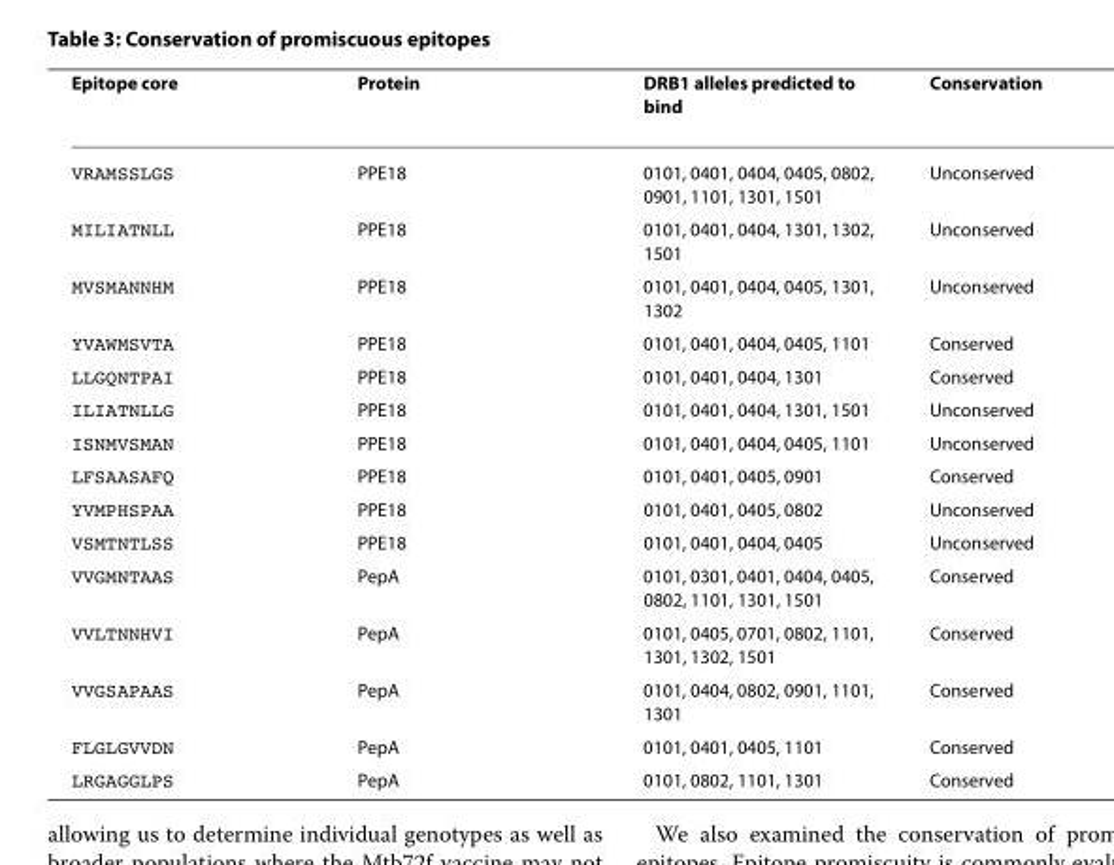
<table><thead><tr><td>Epitope core</td><td>Protein</td><td>DRB1 alleles predicted to bind</td><td>Conservation</td></tr></thead><tbody><tr><td>VRAMSSLGS</td><td>PPE18</td><td>0101, 0401, 0404, 0405, 0802, 0901, 1101, 1301, 1501</td><td>Unconserved</td></tr><tr><td>MILIATNLL</td><td>PPE18</td><td>0101, 0401, 0404, 1301, 1302, 1501</td><td>Unconserved</td></tr><tr><td>MVSMANNHM</td><td>PPE18</td><td>0101, 0401, 0404, 0405, 1301, 1302</td><td>Unconserved</td></tr><tr><td>YVAWMSVTA</td><td>PPE18</td><td>0101, 0401, 0404, 0405, 1101</td><td>Conserved</td></tr><tr><td>LLGQNTPAI</td><td>PPE18</td><td>0101, 0401, 0404, 1301</td><td>Conserved</td></tr><tr><td>ILIATNLLG</td><td>PPE18</td><td>0101, 0401, 0404, 1301, 1501</td><td>Unconserved</td></tr><tr><td>ISNMVSMAN</td><td>PPE18</td><td>0101, 0401, 0404, 0405, 1101</td><td>Unconserved</td></tr><tr><td>LFSAASAFQ</td><td>PPE18</td><td>0101, 0401, 0405, 0901</td><td>Conserved</td></tr><tr><td>YVMPHSPAA</td><td>PPE18</td><td>0101, 0401, 0405, 0802</td><td>Unconserved</td></tr><tr><td>VSMTNTLSS</td><td>PPE18</td><td>0101, 0401, 0404, 0405</td><td>Unconserved</td></tr><tr><td>VVGMNTAAS</td><td>PepA</td><td>0101, 0301, 0401, 0404, 0405, 0802, 1101, 1301, 1501</td><td>Conserved</td></tr><tr><td>VVLTNNHVI</td><td>PepA</td><td>0101, 0405, 0701, 0802, 1101, 1301, 1302, 1501</td><td>Conserved</td></tr><tr><td>VVGSAPAAS</td><td>PepA</td><td>0101, 0404, 0802, 0901, 1101, 1301</td><td>Conserved</td></tr><tr><td>FLGLGVVDN</td><td>PepA</td><td>0101, 0401, 0405, 1101</td><td>Conserved</td></tr><tr><td>LRGAGGLPS</td><td>PepA</td><td>0101, 0802, 1101, 1301</td><td>Conserved</td></tr></tbody></table>